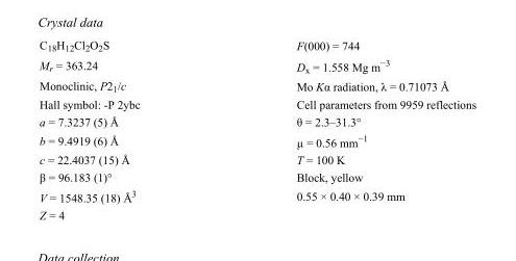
<table><tbody><tr><td>C<sub>18</sub>H<sub>12</sub>Cl<sub>2</sub>O<sub>2</sub>S</td><td>F(000) = 744</td></tr><tr><td>M<sub>r</sub> = 363.24</td><td>D<sub>x</sub> = 1.558 Mg m<sup>−3</sup></td></tr><tr><td>Monoclinic, P2<sub>1</sub>/c</td><td>Mo Kα radiation, λ = 0.71073 Å</td></tr><tr><td>Hall symbol: -P 2ybc</td><td>Cell parameters from 9959 reflections</td></tr><tr><td>a = 7.3237 (5) Å</td><td>θ = 2.3–31.3°</td></tr><tr><td>b = 9.4919 (6) Å</td><td>µ = 0.56 mm<sup>−1</sup></td></tr><tr><td>c = 22.4037 (15) Å</td><td>T = 100 K</td></tr><tr><td>β = 96.183 (1)°</td><td>Block, yellow</td></tr><tr><td>V = 1548.35 (18) Å<sup>3</sup></td><td>0.55 × 0.40 × 0.39 mm</td></tr><tr><td>Z = 4</td><td></td></tr></tbody></table>